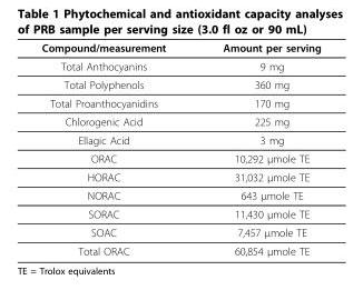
<table><thead><tr><td>Compound/measurement</td><td>Amount per serving</td></tr></thead><tbody><tr><td>Total Anthocyanins</td><td>9 mg</td></tr><tr><td>Total Polyphenols</td><td>360 mg</td></tr><tr><td>Total Proanthocyanidins</td><td>170 mg</td></tr><tr><td>Chlorogenic Acid</td><td>225 mg</td></tr><tr><td>Ellagic Acid</td><td>3 mg</td></tr><tr><td>ORAC</td><td>10,292 μmole TE</td></tr><tr><td>HORAC</td><td>31,032 μmole TE</td></tr><tr><td>NORAC</td><td>643 μmole TE</td></tr><tr><td>SORAC</td><td>11,430 μmole TE</td></tr><tr><td>SOAC</td><td>7,457 μmole TE</td></tr><tr><td>Total ORAC</td><td>60,854 μmole TE</td></tr></tbody></table>